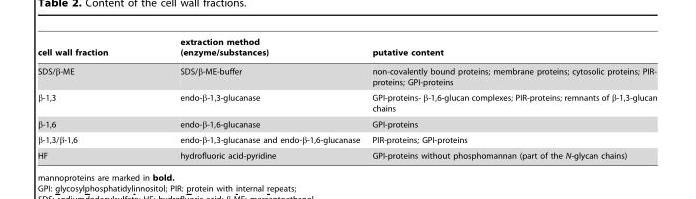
<table><thead><tr><td>cell wall fraction</td><td>extraction method (enzyme/substances)</td><td>putative content</td></tr></thead><tbody><tr><td>SDS/β-ME</td><td>SDS/β-ME-buffer</td><td>non-covalently bound proteins; membrane proteins; cytosolic proteins; PIR- proteins; GPI-proteins</td></tr><tr><td>β-1,3</td><td>endo-β-1,3-glucanase</td><td>GPI-proteins- β-1,6-glucan complexes; PIR-proteins; remnants of β-1,3-glucan chains</td></tr><tr><td>β-1,6</td><td>endo-β-1,6-glucanase</td><td>GPI-proteins</td></tr><tr><td>β-1,3/β-1,6</td><td>endo-β-1,3-glucanase and endo-β-1,6-glucanase</td><td>PIR-proteins; GPI-proteins</td></tr><tr><td>HF</td><td>hydrofluoric acid-pyridine</td><td>GPI-proteins without phosphomannan (part of the N-glycan chains)</td></tr></tbody></table>